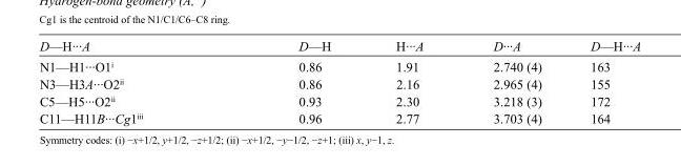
<table><tbody><tr><td>D—H···A</td><td>D—H</td><td>H···A</td><td>D···A</td><td>D—H···A</td></tr><tr><td>N1—H1···O1<sup>i</sup></td><td>0.86</td><td>1.91</td><td>2.740 (4)</td><td>163</td></tr><tr><td>N3—H3A···O2<sup>ii</sup></td><td>0.86</td><td>2.16</td><td>2.965 (4)</td><td>155</td></tr><tr><td>C5—H5···O2<sup>ii</sup></td><td>0.93</td><td>2.30</td><td>3.218 (3)</td><td>172</td></tr><tr><td>C11—H11B···Cg1<sup>iii</sup></td><td>0.96</td><td>2.77</td><td>3.703 (4)</td><td>164</td></tr></tbody></table>